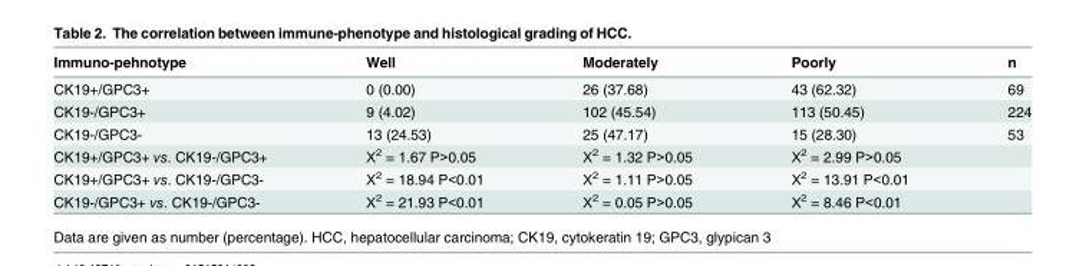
<table><thead><tr><td>Immuno-pehnotype</td><td>Well</td><td>Moderately</td><td>Poorly</td><td>n</td></tr></thead><tbody><tr><td>CK19+/GPC3+</td><td>0 (0.00)</td><td>26 (37.68)</td><td>43 (62.32)</td><td>69</td></tr><tr><td>CK19-/GPC3+</td><td>9 (4.02)</td><td>102 (45.54)</td><td>113 (50.45)</td><td>224</td></tr><tr><td>CK19-/GPC3-</td><td>13 (24.53)</td><td>25 (47.17)</td><td>15 (28.30)</td><td>53</td></tr><tr><td>CK19+/GPC3+ vs. CK19-/GPC3+</td><td>Χ<sup>2</sup> = 1.67 P&gt;0.05</td><td>Χ<sup>2</sup> = 1.32 P&gt;0.05</td><td>Χ<sup>2</sup> = 2.99 P&gt;0.05</td><td></td></tr><tr><td>CK19+/GPC3+ vs. CK19-/GPC3-</td><td>Χ<sup>2</sup> = 18.94 P&lt;0.01</td><td>Χ<sup>2</sup> = 1.11 P&gt;0.05</td><td>Χ<sup>2</sup> = 13.91 P&lt;0.01</td><td></td></tr><tr><td>CK19-/GPC3+ vs. CK19-/GPC3-</td><td>Χ<sup>2</sup> = 21.93 P&lt;0.01</td><td>Χ<sup>2</sup> = 0.05 P&gt;0.05</td><td>Χ<sup>2</sup> = 8.46 P&lt;0.01</td><td></td></tr></tbody></table>